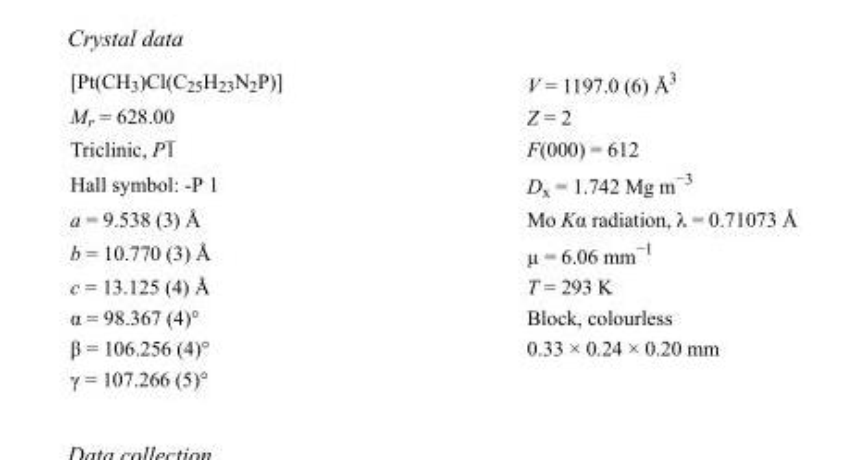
<table><tbody><tr><td>[Pt(CH<sub>3</sub>)Cl(C<sub>25</sub>H<sub>23</sub>N<sub>2</sub>P)]</td><td>V = 1197.0 (6) Å<sup>3</sup></td></tr><tr><td>M<sub>r</sub> = 628.00</td><td>Z = 2</td></tr><tr><td>Triclinic, P1</td><td>F(000) = 612</td></tr><tr><td>Hall symbol: -P 1</td><td>D<sub>x</sub> = 1.742 Mg m<sup>−3</sup></td></tr><tr><td>a = 9.538 (3) Å</td><td>Mo Kα radiation, λ = 0.71073 Å</td></tr><tr><td>b = 10.770 (3) Å</td><td>µ = 6.06 mm<sup>−1</sup></td></tr><tr><td>c = 13.125 (4) Å</td><td>T = 293 K</td></tr><tr><td>α = 98.367 (4)°</td><td>Block, colourless</td></tr><tr><td>β = 106.256 (4)°</td><td>0.33 × 0.24 × 0.20 mm</td></tr><tr><td>γ = 107.266 (5)°</td><td></td></tr></tbody></table>